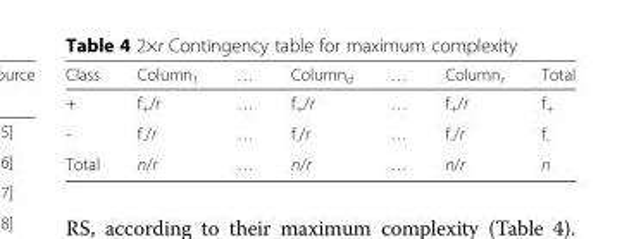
<table><thead><tr><td>Class</td><td>Column<sub>1</sub></td><td>…</td><td>Column<sub>d</sub></td><td>…</td><td>Column<sub>r</sub></td><td>Total</td></tr></thead><tbody><tr><td>+</td><td>f<sub>+</sub>/r</td><td>…</td><td>f<sub>+</sub>/r</td><td>…</td><td>f<sub>+</sub>/r</td><td>f<sub>+</sub></td></tr><tr><td>-</td><td>f<sub>-</sub>/r</td><td>…</td><td>f<sub>-</sub>/r</td><td>…</td><td>f<sub>-</sub>/r</td><td>f<sub>-</sub></td></tr><tr><td>Total</td><td>n/r</td><td>…</td><td>n/r</td><td>…</td><td>n/r</td><td>n</td></tr></tbody></table>